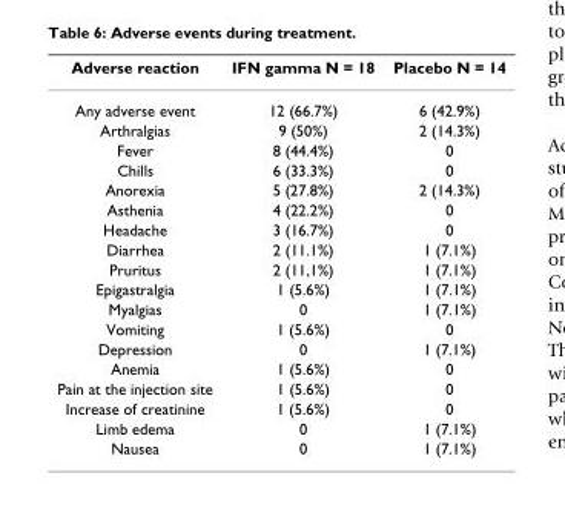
<table><thead><tr><td>Adverse reaction</td><td>IFN gamma N = 18</td><td>Placebo N = 14</td></tr></thead><tbody><tr><td>Any adverse event</td><td>12 (66.7%)</td><td>6 (42.9%)</td></tr><tr><td>Arthralgias</td><td>9 (50%)</td><td>2 (14.3%)</td></tr><tr><td>Fever</td><td>8 (44.4%)</td><td>0</td></tr><tr><td>Chills</td><td>6 (33.3%)</td><td>0</td></tr><tr><td>Anorexia</td><td>5 (27.8%)</td><td>2 (14.3%)</td></tr><tr><td>Asthenia</td><td>4 (22.2%)</td><td>0</td></tr><tr><td>Headache</td><td>3 (16.7%)</td><td>0</td></tr><tr><td>Diarrhea</td><td>2 (11.1%)</td><td>1 (7.1%)</td></tr><tr><td>Pruritus</td><td>2 (11,1%)</td><td>1 (7.1%)</td></tr><tr><td>Epigastralgia</td><td>1 (5.6%)</td><td>1 (7.1%)</td></tr><tr><td>Myalgias</td><td>0</td><td>1 (7.1%)</td></tr><tr><td>Vomiting</td><td>1 (5.6%)</td><td>0</td></tr><tr><td>Depression</td><td>0</td><td>1 (7.1%)</td></tr><tr><td>Anemia</td><td>1 (5.6%)</td><td>0</td></tr><tr><td>Pain at the injection site</td><td>1 (5.6%)</td><td>0</td></tr><tr><td>Increase of creatinine</td><td>1 (5.6%)</td><td>0</td></tr><tr><td>Limb edema</td><td>0</td><td>1 (7.1%)</td></tr><tr><td>Nausea</td><td>0</td><td>1 (7.1%)</td></tr></tbody></table>